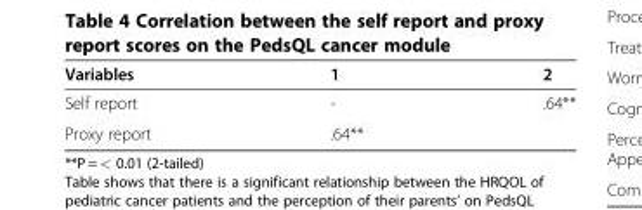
<table><thead><tr><td>Variables</td><td>1</td><td>2</td></tr></thead><tbody><tr><td>Self report</td><td>-</td><td>.64**</td></tr><tr><td>Proxy report</td><td>.64**</td><td></td></tr></tbody></table>